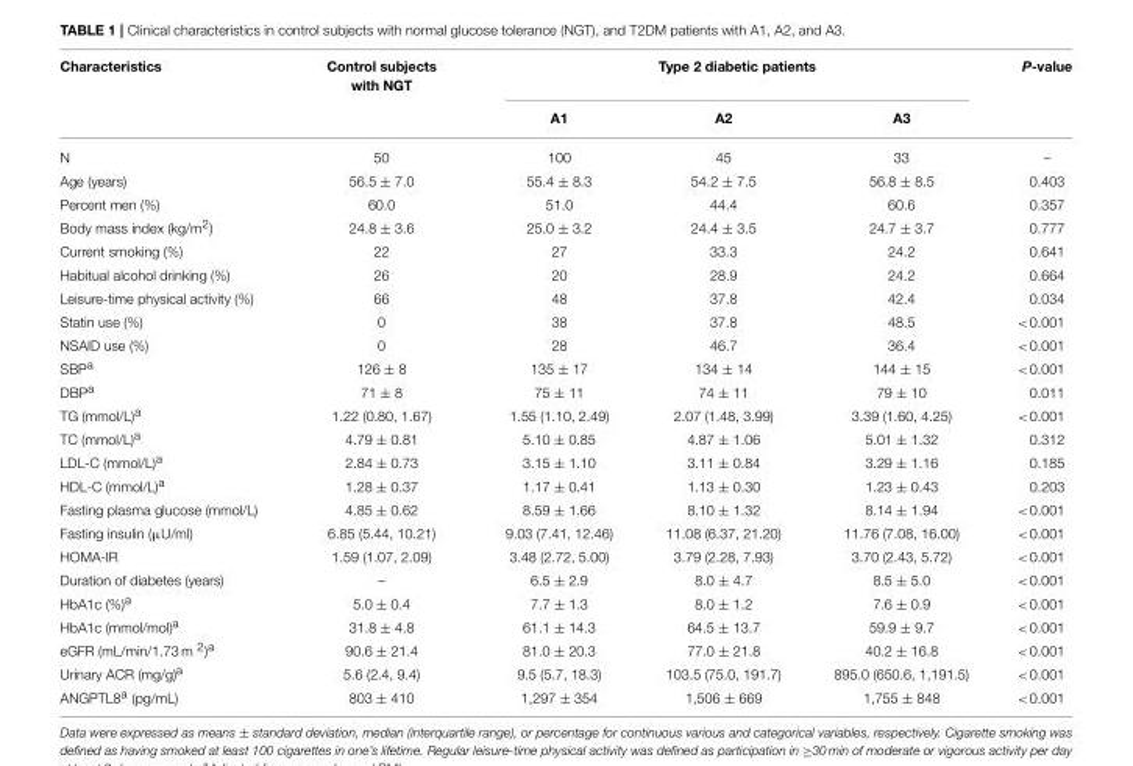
<table><thead><tr><td rowspan="2">Characteristics</td><td rowspan="2">Control subjects with NGT</td><td colspan="3">Type 2 diabetic patients</td><td rowspan="2">P-value</td></tr><tr><td>A1</td><td>A2</td><td>A3</td></tr></thead><tbody><tr><td>N</td><td>50</td><td>100</td><td>45</td><td>33</td><td>–</td></tr><tr><td>Age (years)</td><td>56.5 ± 7.0</td><td>55.4 ± 8.3</td><td>54.2 ± 7.5</td><td>56.8 ± 8.5</td><td>0.403</td></tr><tr><td>Percent men (%)</td><td>60.0</td><td>51.0</td><td>44.4</td><td>60.6</td><td>0.357</td></tr><tr><td>Body mass index (kg/m<sup>2</sup>)</td><td>24.8 ± 3.6</td><td>25.0 ± 3.2</td><td>24.4 ± 3.5</td><td>24.7 ± 3.7</td><td>0.777</td></tr><tr><td>Current smoking (%)</td><td>22</td><td>27</td><td>33.3</td><td>24.2</td><td>0.641</td></tr><tr><td>Habitual alcohol drinking (%)</td><td>26</td><td>20</td><td>28.9</td><td>24.2</td><td>0.664</td></tr><tr><td>Leisure-time physical activity (%)</td><td>66</td><td>48</td><td>37.8</td><td>42.4</td><td>0.034</td></tr><tr><td>Statin use (%)</td><td>0</td><td>38</td><td>37.8</td><td>48.5</td><td>&lt;0.001</td></tr><tr><td>NSAID use (%)</td><td>0</td><td>28</td><td>46.7</td><td>36.4</td><td>&lt;0.001</td></tr><tr><td>SBP<sup>a</sup></td><td>126 ± 8</td><td>135 ± 17</td><td>134 ± 14</td><td>144 ± 15</td><td>&lt;0.001</td></tr><tr><td>DBP<sup>a</sup></td><td>71 ± 8</td><td>75 ± 11</td><td>74 ± 11</td><td>79 ± 10</td><td>0.011</td></tr><tr><td>TG (mmol/L)<sup>a</sup></td><td>1.22 (0.80, 1.67)</td><td>1.55 (1.10, 2.49)</td><td>2.07 (1.48, 3.99)</td><td>3.39 (1.60, 4.25)</td><td>&lt;0.001</td></tr><tr><td>TC (mmol/L)<sup>a</sup></td><td>4.79 ± 0.81</td><td>5.10 ± 0.85</td><td>4.87 ± 1.06</td><td>5.01 ± 1.32</td><td>0.312</td></tr><tr><td>LDL-C (mmol/L)<sup>a</sup></td><td>2.84 ± 0.73</td><td>3.15 ± 1.10</td><td>3.11 ± 0.84</td><td>3.29 ± 1.16</td><td>0.185</td></tr><tr><td>HDL-C (mmol/L)<sup>a</sup></td><td>1.28 ± 0.37</td><td>1.17 ± 0.41</td><td>1.13 ± 0.30</td><td>1.23 ± 0.43</td><td>0.203</td></tr><tr><td>Fasting plasma glucose (mmol/L)</td><td>4.85 ± 0.62</td><td>8.59 ± 1.66</td><td>8.10 ± 1.32</td><td>8.14 ± 1.94</td><td>&lt;0.001</td></tr><tr><td>Fasting insulin (µU/ml)</td><td>6.85 (5.44, 10.21)</td><td>9.03 (7.41, 12.46)</td><td>11.08 (6.37, 21.20)</td><td>11.76 (7.08, 16.00)</td><td>&lt;0.001</td></tr><tr><td>HOMA-IR</td><td>1.59 (1.07, 2.09)</td><td>3.48 (2.72, 5.00)</td><td>3.79 (2.28, 7.93)</td><td>3.70 (2.43, 5.72)</td><td>&lt;0.001</td></tr><tr><td>Duration of diabetes (years)</td><td>–</td><td>6.5 ± 2.9</td><td>8.0 ± 4.7</td><td>8.5 ± 5.0</td><td>&lt;0.001</td></tr><tr><td>HbA1c (%)<sup>a</sup></td><td>5.0 ± 0.4</td><td>7.7 ± 1.3</td><td>8.0 ± 1.2</td><td>7.6 ± 0.9</td><td>&lt;0.001</td></tr><tr><td>HbA1c (mmol/mol)<sup>a</sup></td><td>31.8 ± 4.8</td><td>61.1 ± 14.3</td><td>64.5 ± 13.7</td><td>59.9 ± 9.7</td><td>&lt;0.001</td></tr><tr><td>eGFR (mL/min/1.73 m <sup>2</sup>)<sup>a</sup></td><td>90.6 ± 21.4</td><td>81.0 ± 20.3</td><td>77.0 ± 21.8</td><td>40.2 ± 16.8</td><td>&lt;0.001</td></tr><tr><td>Urinary ACR (mg/g)<sup>a</sup></td><td>5.6 (2.4, 9.4)</td><td>9.5 (5.7, 18.3)</td><td>103.5 (75.0, 191.7)</td><td>895.0 (650.6, 1,191.5)</td><td>&lt;0.001</td></tr><tr><td>ANGPTL8<sup>a</sup> (pg/mL)</td><td>803 ± 410</td><td>1,297 ± 354</td><td>1,506 ± 669</td><td>1,755 ± 848</td><td>&lt;0.001</td></tr></tbody></table>